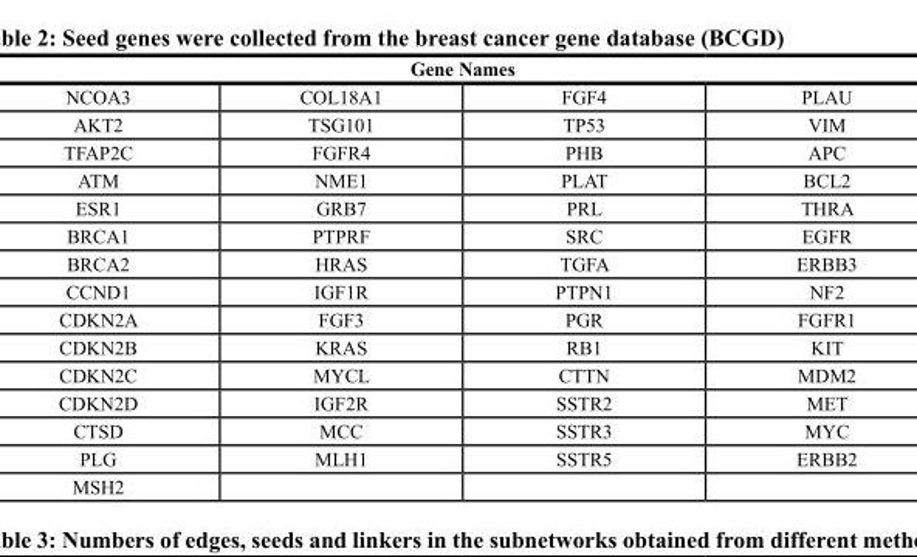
<table><thead><tr><td colspan="4">Gene Names</td></tr><tr><td>NCOA3</td><td>COL18A1</td><td>FGF4</td><td>PLAU</td></tr></thead><tbody><tr><td>AKT2</td><td>TSG101</td><td>TP53</td><td>VIM</td></tr><tr><td>TFAP2C</td><td>FGFR4</td><td>PHB</td><td>APC</td></tr><tr><td>ATM</td><td>NME1</td><td>PLAT</td><td>BCL2</td></tr><tr><td>ESR1</td><td>GRB7</td><td>PRL</td><td>THRA</td></tr><tr><td>BRCA1</td><td>PTPRF</td><td>SRC</td><td>EGFR</td></tr><tr><td>BRCA2</td><td>HRAS</td><td>TGFA</td><td>ERBB3</td></tr><tr><td>CCND1</td><td>IGF1R</td><td>PTPN1</td><td>NF2</td></tr><tr><td>CDKN2A</td><td>FGF3</td><td>PGR</td><td>FGFR1</td></tr><tr><td>CDKN2B</td><td>KRAS</td><td>RB1</td><td>KIT</td></tr><tr><td>CDKN2C</td><td>MYCL</td><td>CTTN</td><td>MDM2</td></tr><tr><td>CDKN2D</td><td>IGF2R</td><td>SSTR2</td><td>MET</td></tr><tr><td>CTSD</td><td>MCC</td><td>SSTR3</td><td>MYC</td></tr><tr><td>PLG</td><td>MLH1</td><td>SSTR5</td><td>ERBB2</td></tr><tr><td>MSH2</td><td></td><td></td><td></td></tr></tbody></table>